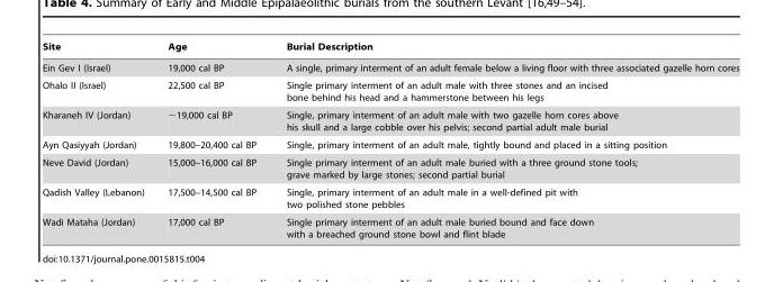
<table><thead><tr><td>Site</td><td>Age</td><td>Burial Description</td></tr></thead><tbody><tr><td>Ein Gev I (Israel)</td><td>19,000 cal BP</td><td>A single, primary interment of an adult female below a living floor with three associated gazelle horn cores</td></tr><tr><td>Ohalo II (Israel)</td><td>22,500 cal BP</td><td>Single primary interment of an adult male with three stones and an incised bone behind his head and a hammerstone between his legs</td></tr><tr><td>Kharaneh IV (Jordan)</td><td>∼19,000 cal BP</td><td>Single, primary interment of an adult male with two gazelle horn cores above his skull and a large cobble over his pelvis; second partial adult male burial</td></tr><tr><td>Ayn Qasiyyah (Jordan)</td><td>19,800–20,400 cal BP</td><td>Single, primary interment of an adult male, tightly bound and placed in a sitting position</td></tr><tr><td>Neve David (Jordan)</td><td>15,000–16,000 cal BP</td><td>Single primary interment of an adult male buried with a three ground stone tools; grave marked by large stones; second partial burial</td></tr><tr><td>Qadish Valley (Lebanon)</td><td>17,500–14,500 cal BP</td><td>Single, primary interment of an adult male in a well-defined pit with two polished stone pebbles</td></tr><tr><td>Wadi Mataha (Jordan)</td><td>17,000 cal BP</td><td>Single primary interment of an adult male buried bound and face down with a breached ground stone bowl and flint blade</td></tr></tbody></table>